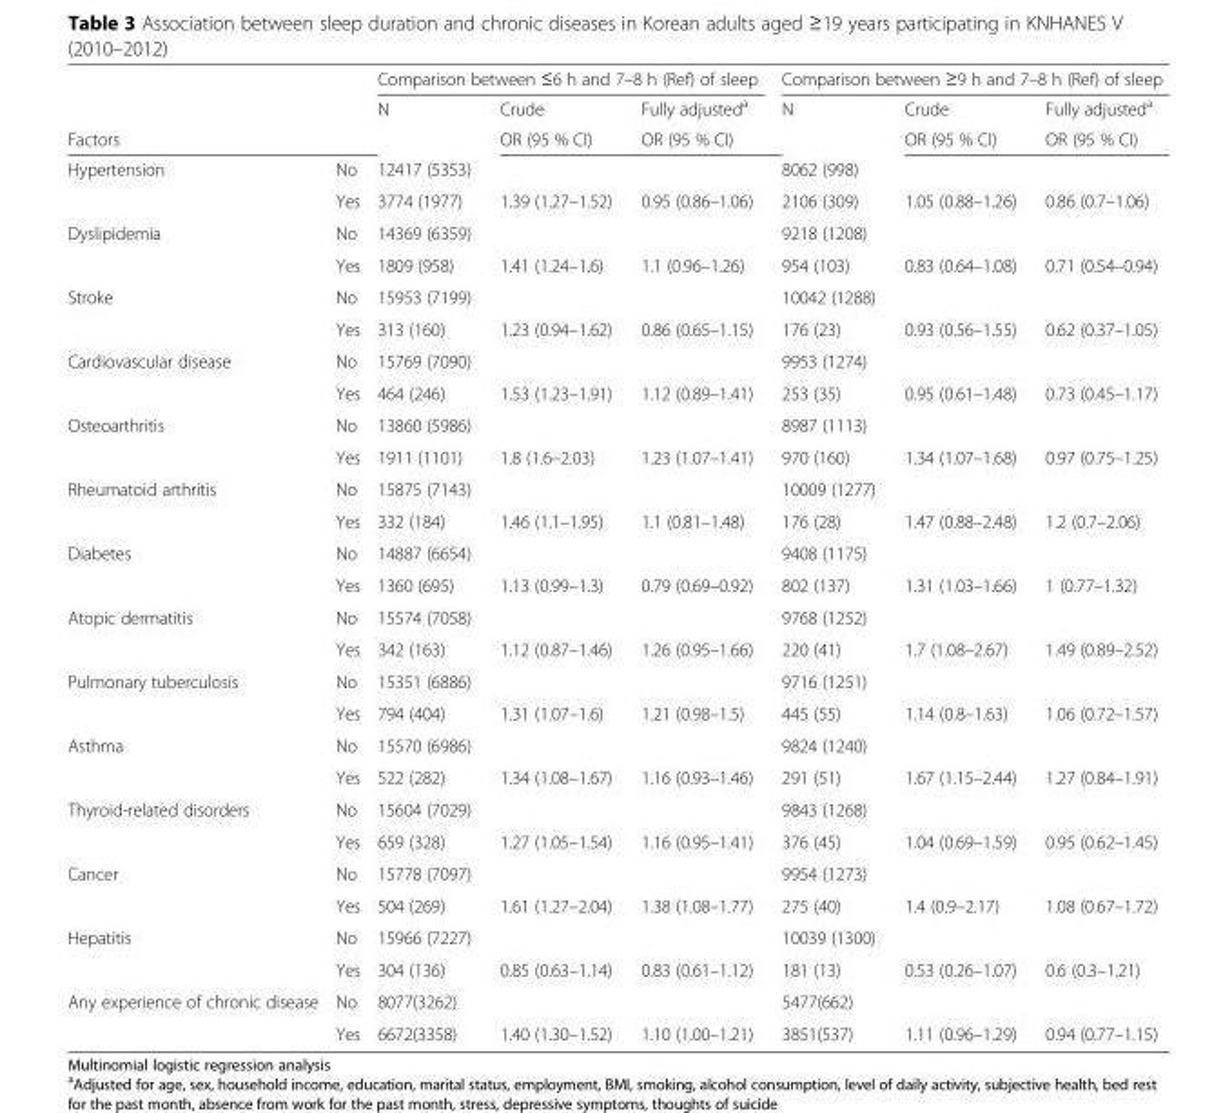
<table><thead><tr><td rowspan="3">Factors</td><td rowspan="3"></td><td colspan="3">Comparison between ≤6 h and 7–8 h (Ref) of sleep</td><td colspan="3">Comparison between ≥9 h and 7–8 h (Ref) of sleep</td></tr><tr><td rowspan="2">N</td><td rowspan="2">Crude OR (95 % CI)</td><td rowspan="2">Fully adjusted<sup>a</sup> OR (95 % CI)</td><td rowspan="2">N</td><td rowspan="2">Crude OR (95 % CI)</td><td rowspan="2">Fully adjusted<sup>a</sup> OR (95 % CI)</td></tr><tr></tr></thead><tbody><tr><td rowspan="2">Hypertension</td><td>No</td><td>12417 (5353)</td><td></td><td></td><td>8062 (998)</td><td></td><td></td></tr><tr><td>Yes</td><td>3774 (1977)</td><td>1.39 (1.27–1.52)</td><td>0.95 (0.86–1.06)</td><td>2106 (309)</td><td>1.05 (0.88–1.26)</td><td>0.86 (0.7–1.06)</td></tr><tr><td rowspan="2">Dyslipidemia</td><td>No</td><td>14369 (6359)</td><td></td><td></td><td>9218 (1208)</td><td></td><td></td></tr><tr><td>Yes</td><td>1809 (958)</td><td>1.41 (1.24–1.6)</td><td>1.1 (0.96–1.26)</td><td>954 (103)</td><td>0.83 (0.64–1.08)</td><td>0.71 (0.54–0.94)</td></tr><tr><td rowspan="2">Stroke</td><td>No</td><td>15953 (7199)</td><td></td><td></td><td>10042 (1288)</td><td></td><td></td></tr><tr><td>Yes</td><td>313 (160)</td><td>1.23 (0.94–1.62)</td><td>0.86 (0.65–1.15)</td><td>176 (23)</td><td>0.93 (0.56–1.55)</td><td>0.62 (0.37–1.05)</td></tr><tr><td rowspan="2">Cardiovascular disease</td><td>No</td><td>15769 (7090)</td><td></td><td></td><td>9953 (1274)</td><td></td><td></td></tr><tr><td>Yes</td><td>464 (246)</td><td>1.53 (1.23–1.91)</td><td>1.12 (0.89–1.41)</td><td>253 (35)</td><td>0.95 (0.61–1.48)</td><td>0.73 (0.45–1.17)</td></tr><tr><td rowspan="2">Osteoarthritis</td><td>No</td><td>13860 (5986)</td><td></td><td></td><td>8987 (1113)</td><td></td><td></td></tr><tr><td>Yes</td><td>1911 (1101)</td><td>1.8 (1.6–2.03)</td><td>1.23 (1.07–1.41)</td><td>970 (160)</td><td>1.34 (1.07–1.68)</td><td>0.97 (0.75–1.25)</td></tr><tr><td rowspan="2">Rheumatoid arthritis</td><td>No</td><td>15875 (7143)</td><td></td><td></td><td>10009 (1277)</td><td></td><td></td></tr><tr><td>Yes</td><td>332 (184)</td><td>1.46 (1.1–1.95)</td><td>1.1 (0.81–1.48)</td><td>176 (28)</td><td>1.47 (0.88–2.48)</td><td>1.2 (0.7–2.06)</td></tr><tr><td rowspan="2">Diabetes</td><td>No</td><td>14887 (6654)</td><td></td><td></td><td>9408 (1175)</td><td></td><td></td></tr><tr><td>Yes</td><td>1360 (695)</td><td>1.13 (0.99–1.3)</td><td>0.79 (0.69–0.92)</td><td>802 (137)</td><td>1.31 (1.03–1.66)</td><td>1 (0.77–1.32)</td></tr><tr><td rowspan="2">Atopic dermatitis</td><td>No</td><td>15574 (7058)</td><td></td><td></td><td>9768 (1252)</td><td></td><td></td></tr><tr><td>Yes</td><td>342 (163)</td><td>1.12 (0.87–1.46)</td><td>1.26 (0.95–1.66)</td><td>220 (41)</td><td>1.7 (1.08–2.67)</td><td>1.49 (0.89–2.52)</td></tr><tr><td rowspan="2">Pulmonary tuberculosis</td><td>No</td><td>15351 (6886)</td><td></td><td></td><td>9716 (1251)</td><td></td><td></td></tr><tr><td>Yes</td><td>794 (404)</td><td>1.31 (1.07–1.6)</td><td>1.21 (0.98–1.5)</td><td>445 (55)</td><td>1.14 (0.8–1.63)</td><td>1.06 (0.72–1.57)</td></tr><tr><td rowspan="2">Asthma</td><td>No</td><td>15570 (6986)</td><td></td><td></td><td>9824 (1240)</td><td></td><td></td></tr><tr><td>Yes</td><td>522 (282)</td><td>1.34 (1.08–1.67)</td><td>1.16 (0.93–1.46)</td><td>291 (51)</td><td>1.67 (1.15–2.44)</td><td>1.27 (0.84–1.91)</td></tr><tr><td rowspan="2">Thyroid-related disorders</td><td>No</td><td>15604 (7029)</td><td></td><td></td><td>9843 (1268)</td><td></td><td></td></tr><tr><td>Yes</td><td>659 (328)</td><td>1.27 (1.05–1.54)</td><td>1.16 (0.95–1.41)</td><td>376 (45)</td><td>1.04 (0.69–1.59)</td><td>0.95 (0.62–1.45)</td></tr><tr><td rowspan="2">Cancer</td><td>No</td><td>15778 (7097)</td><td></td><td></td><td>9954 (1273)</td><td></td><td></td></tr><tr><td>Yes</td><td>504 (269)</td><td>1.61 (1.27–2.04)</td><td>1.38 (1.08–1.77)</td><td>275 (40)</td><td>1.4 (0.9–2.17)</td><td>1.08 (0.67–1.72)</td></tr><tr><td rowspan="2">Hepatitis</td><td>No</td><td>15966 (7227)</td><td></td><td></td><td>10039 (1300)</td><td></td><td></td></tr><tr><td>Yes</td><td>304 (136)</td><td>0.85 (0.63–1.14)</td><td>0.83 (0.61–1.12)</td><td>181 (13)</td><td>0.53 (0.26–1.07)</td><td>0.6 (0.3–1.21)</td></tr><tr><td rowspan="2">Any experience of chronic disease</td><td>No</td><td>8077(3262)</td><td></td><td></td><td>5477(662)</td><td></td><td></td></tr><tr><td>Yes</td><td>6672(3358)</td><td>1.40 (1.30–1.52)</td><td>1.10 (1.00–1.21)</td><td>3851(537)</td><td>1.11 (0.96–1.29)</td><td>0.94 (0.77–1.15)</td></tr></tbody></table>